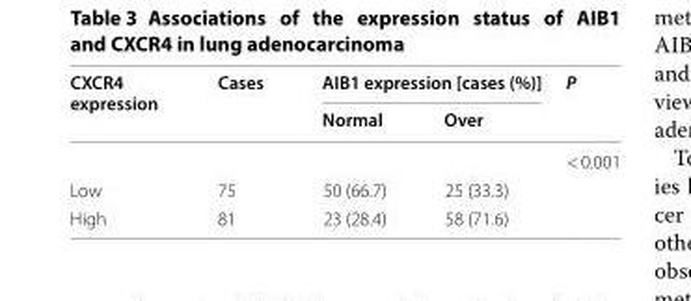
<table><thead><tr><td rowspan="2">CXCR4 expression</td><td rowspan="2">Cases</td><td colspan="2">AIB1 expression [cases (%)]</td><td rowspan="2">P</td></tr><tr><td>Normal</td><td>Over</td></tr></thead><tbody><tr><td colspan="4"></td><td>&lt; 0.001</td></tr><tr><td>Low</td><td>75</td><td>50 (66.7)</td><td>25 (33.3)</td><td></td></tr><tr><td>High</td><td>81</td><td>23 (28.4)</td><td>58 (71.6)</td><td></td></tr></tbody></table>